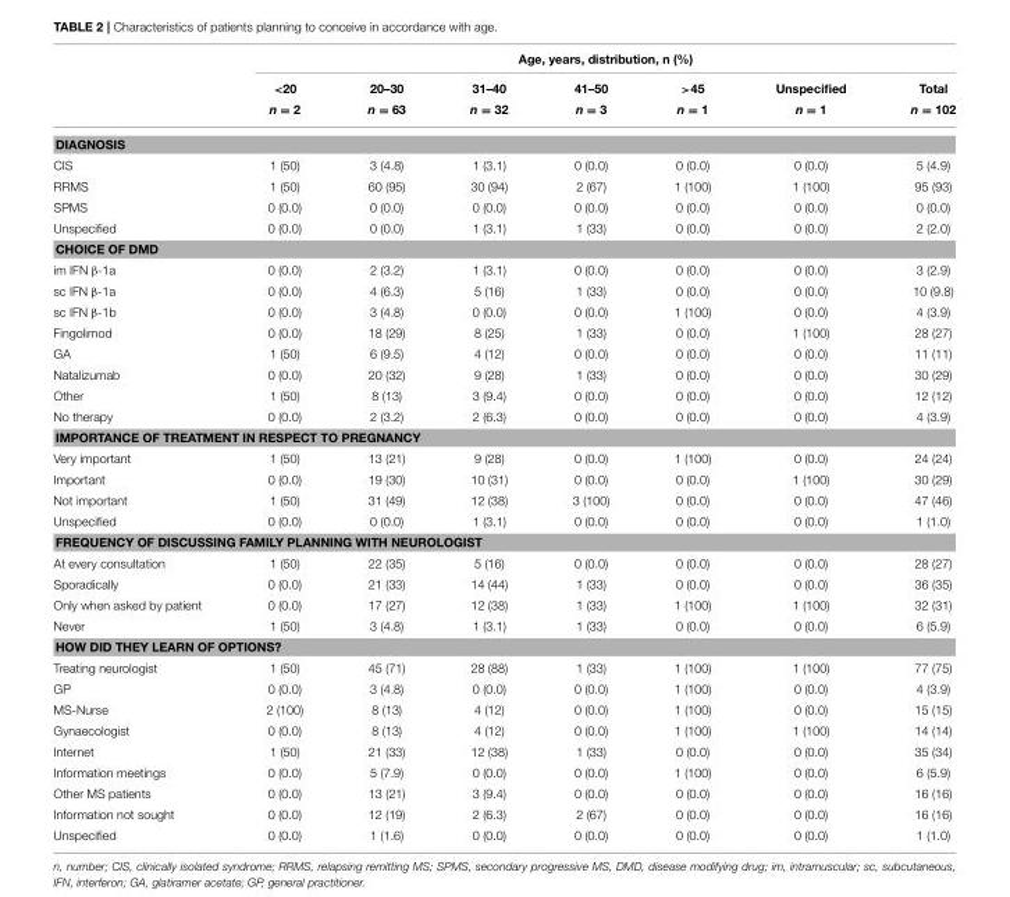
<table><thead><tr><td rowspan="3"></td><td colspan="7">Age, years, distribution, n (%)</td></tr><tr><td rowspan="2">&lt;20 n = 2</td><td rowspan="2">20–30 n = 63</td><td rowspan="2">31–40 n = 32</td><td rowspan="2">41–50 n = 3</td><td rowspan="2">&gt;45 n = 1</td><td rowspan="2">Unspecified n = 1</td><td rowspan="2">Total n = 102</td></tr><tr></tr></thead><tbody><tr><td colspan="8">DIAGNOSIS</td></tr><tr><td>CIS</td><td>1 (50)</td><td>3 (4.8)</td><td>1 (3.1)</td><td>0 (0.0)</td><td>0 (0.0)</td><td>0 (0.0)</td><td>5 (4.9)</td></tr><tr><td>RRMS</td><td>1 (50)</td><td>60 (95)</td><td>30 (94)</td><td>2 (67)</td><td>1 (100)</td><td>1 (100)</td><td>95 (93)</td></tr><tr><td>SPMS</td><td>0 (0.0)</td><td>0 (0.0)</td><td>0 (0.0)</td><td>0 (0.0)</td><td>0 (0.0)</td><td>0 (0.0)</td><td>0 (0.0)</td></tr><tr><td>Unspecified</td><td>0 (0.0)</td><td>0 (0.0)</td><td>1 (3.1)</td><td>1 (33)</td><td>0 (0.0)</td><td>0 (0.0)</td><td>2 (2.0)</td></tr><tr><td colspan="8">CHOICE OF DMD</td></tr><tr><td>im IFN β-1a</td><td>0 (0.0)</td><td>2 (3.2)</td><td>1 (3.1)</td><td>0 (0.0)</td><td>0 (0.0)</td><td>0 (0.0)</td><td>3 (2.9)</td></tr><tr><td>sc IFN β-1a</td><td>0 (0.0)</td><td>4 (6.3)</td><td>5 (16)</td><td>1 (33)</td><td>0 (0.0)</td><td>0 (0.0)</td><td>10 (9.8)</td></tr><tr><td>sc IFN β-1b</td><td>0 (0.0)</td><td>3 (4.8)</td><td>0 (0.0)</td><td>0 (0.0)</td><td>1 (100)</td><td>0 (0.0)</td><td>4 (3.9)</td></tr><tr><td>Fingolimod</td><td>0 (0.0)</td><td>18 (29)</td><td>8 (25)</td><td>1 (33)</td><td>0 (0.0)</td><td>1 (100)</td><td>28 (27)</td></tr><tr><td>GA</td><td>1 (50)</td><td>6 (9.5)</td><td>4 (12)</td><td>0 (0.0)</td><td>0 (0.0)</td><td>0 (0.0)</td><td>11 (11)</td></tr><tr><td>Natalizumab</td><td>0 (0.0)</td><td>20 (32)</td><td>9 (28)</td><td>1 (33)</td><td>0 (0.0)</td><td>0 (0.0)</td><td>30 (29)</td></tr><tr><td>Other</td><td>1 (50)</td><td>8 (13)</td><td>3 (9.4)</td><td>0 (0.0)</td><td>0 (0.0)</td><td>0 (0.0)</td><td>12 (12)</td></tr><tr><td>No therapy</td><td>0 (0.0)</td><td>2 (3.2)</td><td>2 (6.3)</td><td>0 (0.0)</td><td>0 (0.0)</td><td>0 (0.0)</td><td>4 (3.9)</td></tr><tr><td colspan="8">IMPORTANCE OF TREATMENT IN RESPECT TO PREGNANCY</td></tr><tr><td>Very important</td><td>1 (50)</td><td>13 (21)</td><td>9 (28)</td><td>0 (0.0)</td><td>1 (100)</td><td>0 (0.0)</td><td>24 (24)</td></tr><tr><td>Important</td><td>0 (0.0)</td><td>19 (30)</td><td>10 (31)</td><td>0 (0.0)</td><td>0 (0.0)</td><td>1 (100)</td><td>30 (29)</td></tr><tr><td>Not important</td><td>1 (50)</td><td>31 (49)</td><td>12 (38)</td><td>3 (100)</td><td>0 (0.0)</td><td>0 (0.0)</td><td>47 (46)</td></tr><tr><td>Unspecified</td><td>0 (0.0)</td><td>0 (0.0)</td><td>1 (3.1)</td><td>0 (0.0)</td><td>0 (0.0)</td><td>0 (0.0)</td><td>1 (1.0)</td></tr><tr><td colspan="8">FREQUENCY OF DISCUSSING FAMILY PLANNING WITH NEUROLOGIST</td></tr><tr><td>At every consultation</td><td>1 (50)</td><td>22 (35)</td><td>5 (16)</td><td>0 (0.0)</td><td>0 (0.0)</td><td>0 (0.0)</td><td>28 (27)</td></tr><tr><td>Sporadically</td><td>0 (0.0)</td><td>21 (33)</td><td>14 (44)</td><td>1 (33)</td><td>0 (0.0)</td><td>0 (0.0)</td><td>36 (35)</td></tr><tr><td>Only when asked by patient</td><td>0 (0.0)</td><td>17 (27)</td><td>12 (38)</td><td>1 (33)</td><td>1 (100)</td><td>1 (100)</td><td>32 (31)</td></tr><tr><td>Never</td><td>1 (50)</td><td>3 (4.8)</td><td>1 (3.1)</td><td>1 (33)</td><td>0 (0.0)</td><td>0 (0.0)</td><td>6 (5.9)</td></tr><tr><td colspan="8">HOW DID THEY LEARN OF OPTIONS?</td></tr><tr><td>Treating neurologist</td><td>1 (50)</td><td>45 (71)</td><td>28 (88)</td><td>1 (33)</td><td>1 (100)</td><td>1 (100)</td><td>77 (75)</td></tr><tr><td>GP</td><td>0 (0.0)</td><td>3 (4.8)</td><td>0 (0.0)</td><td>0 (0.0)</td><td>1 (100)</td><td>0 (0.0)</td><td>4 (3.9)</td></tr><tr><td>MS-Nurse</td><td>2 (100)</td><td>8 (13)</td><td>4 (12)</td><td>0 (0.0)</td><td>1 (100)</td><td>0 (0.0)</td><td>15 (15)</td></tr><tr><td>Gynaecologist</td><td>0 (0.0)</td><td>8 (13)</td><td>4 (12)</td><td>0 (0.0)</td><td>1 (100)</td><td>1 (100)</td><td>14 (14)</td></tr><tr><td>Internet</td><td>1 (50)</td><td>21 (33)</td><td>12 (38)</td><td>1 (33)</td><td>0 (0.0)</td><td>0 (0.0)</td><td>35 (34)</td></tr><tr><td>Information meetings</td><td>0 (0.0)</td><td>5 (7.9)</td><td>0 (0.0)</td><td>0 (0.0)</td><td>1 (100)</td><td>0 (0.0)</td><td>6 (5.9)</td></tr><tr><td>Other MS patients</td><td>0 (0.0)</td><td>13 (21)</td><td>3 (9.4)</td><td>0 (0.0)</td><td>0 (0.0)</td><td>0 (0.0)</td><td>16 (16)</td></tr><tr><td>Information not sought</td><td>0 (0.0)</td><td>12 (19)</td><td>2 (6.3)</td><td>2 (67)</td><td>0 (0.0)</td><td>0 (0.0)</td><td>16 (16)</td></tr><tr><td>Unspecified</td><td>0 (0.0)</td><td>1 (1.6)</td><td>0 (0.0)</td><td>0 (0.0)</td><td>0 (0.0)</td><td>0 (0.0)</td><td>1 (1.0)</td></tr></tbody></table>